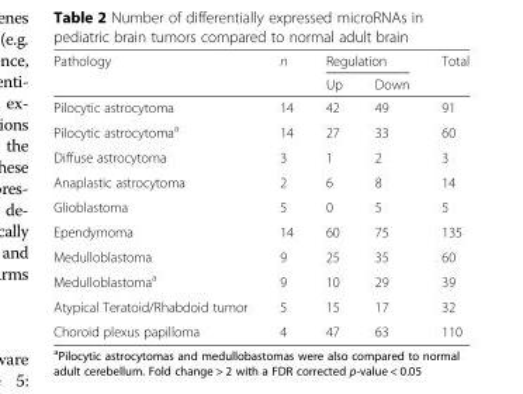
<table><thead><tr><td rowspan="2">Pathology</td><td rowspan="2">n</td><td colspan="2">Regulation</td><td rowspan="2">Total</td></tr><tr><td>Up</td><td>Down</td></tr></thead><tbody><tr><td>Pilocytic astrocytoma</td><td>14</td><td>42</td><td>49</td><td>91</td></tr><tr><td>Pilocytic astrocytoma<sup>a</sup></td><td>14</td><td>27</td><td>33</td><td>60</td></tr><tr><td>Diffuse astrocytoma</td><td>3</td><td>1</td><td>2</td><td>3</td></tr><tr><td>Anaplastic astrocytoma</td><td>2</td><td>6</td><td>8</td><td>14</td></tr><tr><td>Glioblastoma</td><td>5</td><td>0</td><td>5</td><td>5</td></tr><tr><td>Ependymoma</td><td>14</td><td>60</td><td>75</td><td>135</td></tr><tr><td>Medulloblastoma</td><td>9</td><td>25</td><td>35</td><td>60</td></tr><tr><td>Medulloblastoma<sup>a</sup></td><td>9</td><td>10</td><td>29</td><td>39</td></tr><tr><td>Atypical Teratoid/Rhabdoid tumor</td><td>5</td><td>15</td><td>17</td><td>32</td></tr><tr><td>Choroid plexus papilloma</td><td>4</td><td>47</td><td>63</td><td>110</td></tr></tbody></table>